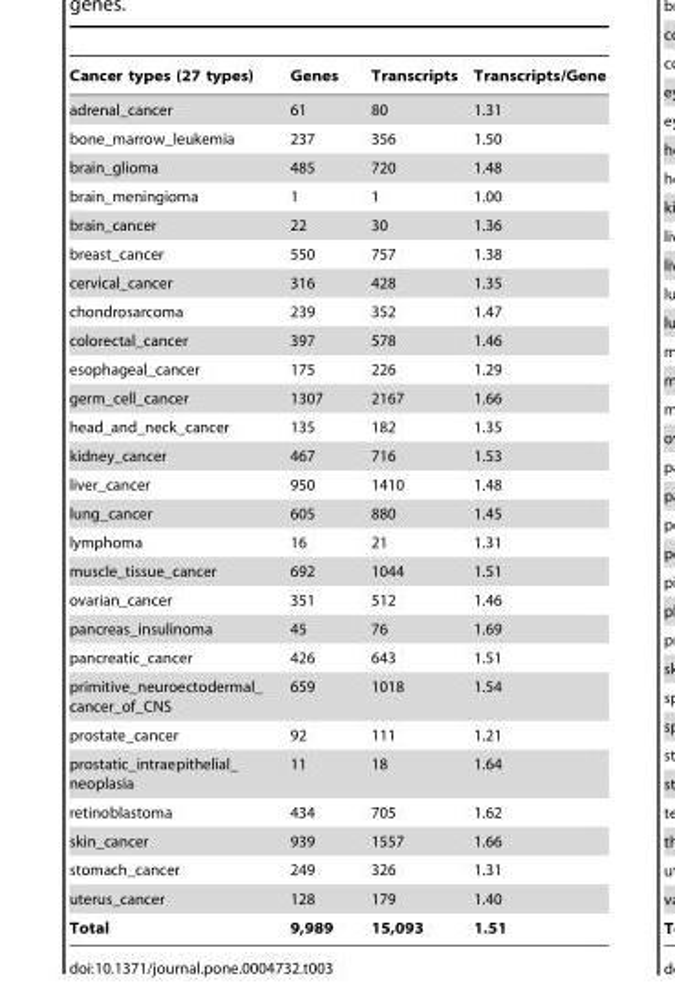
<table><thead><tr><td>Cancer types (27 types)</td><td>Genes</td><td>Transcripts</td><td>Transcripts/Gene</td></tr></thead><tbody><tr><td>adrenal_cancer</td><td>61</td><td>80</td><td>1.31</td></tr><tr><td>bone_marrow_leukemia</td><td>237</td><td>356</td><td>1.50</td></tr><tr><td>brain_glioma</td><td>485</td><td>720</td><td>1.48</td></tr><tr><td>brain_meningioma</td><td>1</td><td>1</td><td>1.00</td></tr><tr><td>brain_cancer</td><td>22</td><td>30</td><td>1.36</td></tr><tr><td>breast_cancer</td><td>550</td><td>757</td><td>1.38</td></tr><tr><td>cervical_cancer</td><td>316</td><td>428</td><td>1.35</td></tr><tr><td>chondrosarcoma</td><td>239</td><td>352</td><td>1.47</td></tr><tr><td>colorectal_cancer</td><td>397</td><td>578</td><td>1.46</td></tr><tr><td>esophageal_cancer</td><td>175</td><td>226</td><td>1.29</td></tr><tr><td>germ_cell_cancer</td><td>1307</td><td>2167</td><td>1.66</td></tr><tr><td>head_and_neck_cancer</td><td>135</td><td>182</td><td>1.35</td></tr><tr><td>kidney_cancer</td><td>467</td><td>716</td><td>1.53</td></tr><tr><td>liver_cancer</td><td>950</td><td>1410</td><td>1.48</td></tr><tr><td>lung_cancer</td><td>605</td><td>880</td><td>1.45</td></tr><tr><td>lymphoma</td><td>16</td><td>21</td><td>1.31</td></tr><tr><td>muscle_tissue_cancer</td><td>692</td><td>1044</td><td>1.51</td></tr><tr><td>ovarian_cancer</td><td>351</td><td>512</td><td>1.46</td></tr><tr><td>pancreas_insulinoma</td><td>45</td><td>76</td><td>1.69</td></tr><tr><td>pancreatic_cancer</td><td>426</td><td>643</td><td>1.51</td></tr><tr><td>primitive_neuroectodermal_ cancer_of_CNS</td><td>659</td><td>1018</td><td>1.54</td></tr><tr><td>prostate_cancer</td><td>92</td><td>111</td><td>1.21</td></tr><tr><td>prostatic_intraepithelial_ neoplasia</td><td>11</td><td>18</td><td>1.64</td></tr><tr><td>retinoblastoma</td><td>434</td><td>705</td><td>1.62</td></tr><tr><td>skin_cancer</td><td>939</td><td>1557</td><td>1.66</td></tr><tr><td>stomach_cancer</td><td>249</td><td>326</td><td>1.31</td></tr><tr><td>uterus_cancer</td><td>128</td><td>179</td><td>1.40</td></tr><tr><td>Total</td><td>9,989</td><td>15,093</td><td>1.51</td></tr></tbody></table>